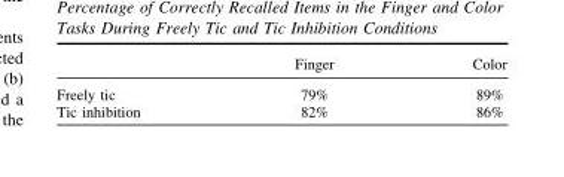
<table><thead><tr><td></td><td>Finger</td><td>Color</td></tr></thead><tbody><tr><td>Freely tic</td><td>79%</td><td>89%</td></tr><tr><td>Tic inhibition</td><td>82%</td><td>86%</td></tr></tbody></table>